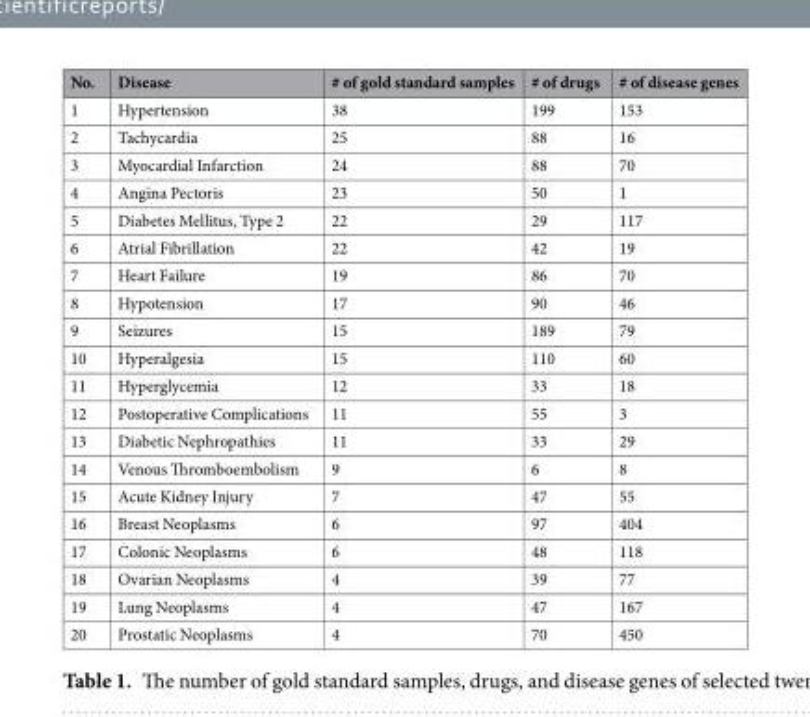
<table><thead><tr><td>No.</td><td>Disease</td><td># of gold standard samples</td><td># of drugs</td><td># of disease genes</td></tr></thead><tbody><tr><td>1</td><td>Hypertension</td><td>38</td><td>199</td><td>153</td></tr><tr><td>2</td><td>Tachycardia</td><td>25</td><td>88</td><td>16</td></tr><tr><td>3</td><td>Myocardial Infarction</td><td>24</td><td>88</td><td>70</td></tr><tr><td>4</td><td>Angina Pectoris</td><td>23</td><td>50</td><td>1</td></tr><tr><td>5</td><td>Diabetes Mellitus, Type 2</td><td>22</td><td>29</td><td>117</td></tr><tr><td>6</td><td>Atrial Fibrillation</td><td>22</td><td>42</td><td>19</td></tr><tr><td>7</td><td>Heart Failure</td><td>19</td><td>86</td><td>70</td></tr><tr><td>8</td><td>Hypotension</td><td>17</td><td>90</td><td>46</td></tr><tr><td>9</td><td>Seizures</td><td>15</td><td>189</td><td>79</td></tr><tr><td>10</td><td>Hyperalgesia</td><td>15</td><td>110</td><td>60</td></tr><tr><td>11</td><td>Hyperglycemia</td><td>12</td><td>33</td><td>18</td></tr><tr><td>12</td><td>Postoperative Complications</td><td>11</td><td>55</td><td>3</td></tr><tr><td>13</td><td>Diabetic Nephropathies</td><td>11</td><td>33</td><td>29</td></tr><tr><td>14</td><td>Venous Thromboembolism</td><td>9</td><td>6</td><td>8</td></tr><tr><td>15</td><td>Acute Kidney Injury</td><td>7</td><td>47</td><td>55</td></tr><tr><td>16</td><td>Breast Neoplasms</td><td>6</td><td>97</td><td>404</td></tr><tr><td>17</td><td>Colonic Neoplasms</td><td>6</td><td>48</td><td>118</td></tr><tr><td>18</td><td>Ovarian Neoplasms</td><td>4</td><td>39</td><td>77</td></tr><tr><td>19</td><td>Lung Neoplasms</td><td>4</td><td>47</td><td>167</td></tr><tr><td>20</td><td>Prostatic Neoplasms</td><td>4</td><td>70</td><td>450</td></tr></tbody></table>